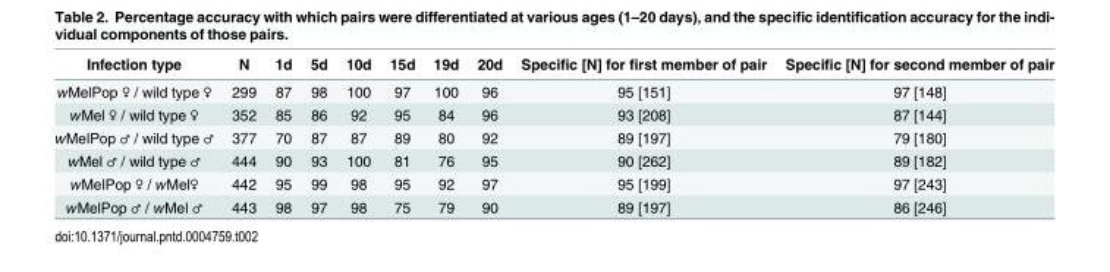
<table><thead><tr><td>Infection type</td><td>N</td><td>1d</td><td>5d</td><td>10d</td><td>15d</td><td>19d</td><td>20d</td><td>Specific [N] for first member of pair</td><td>Specific [N] for second member of pair</td></tr></thead><tbody><tr><td>wMelPop ♀ / wild type ♀</td><td>299</td><td>87</td><td>98</td><td>100</td><td>97</td><td>100</td><td>96</td><td>95 [151]</td><td>97 [148]</td></tr><tr><td>wMel ♀ / wild type ♀</td><td>352</td><td>85</td><td>86</td><td>92</td><td>95</td><td>84</td><td>96</td><td>93 [208]</td><td>87 [144]</td></tr><tr><td>wMelPop ♂ / wild type ♂</td><td>377</td><td>70</td><td>87</td><td>87</td><td>89</td><td>80</td><td>92</td><td>89 [197]</td><td>79 [180]</td></tr><tr><td>wMel ♂ / wild type ♂</td><td>444</td><td>90</td><td>93</td><td>100</td><td>81</td><td>76</td><td>95</td><td>90 [262]</td><td>89 [182]</td></tr><tr><td>wMelPop ♀ / wMel♀</td><td>442</td><td>95</td><td>99</td><td>98</td><td>95</td><td>92</td><td>97</td><td>95 [199]</td><td>97 [243]</td></tr><tr><td>wMelPop ♂ / wMel ♂</td><td>443</td><td>98</td><td>97</td><td>98</td><td>75</td><td>79</td><td>90</td><td>89 [197]</td><td>86 [246]</td></tr></tbody></table>